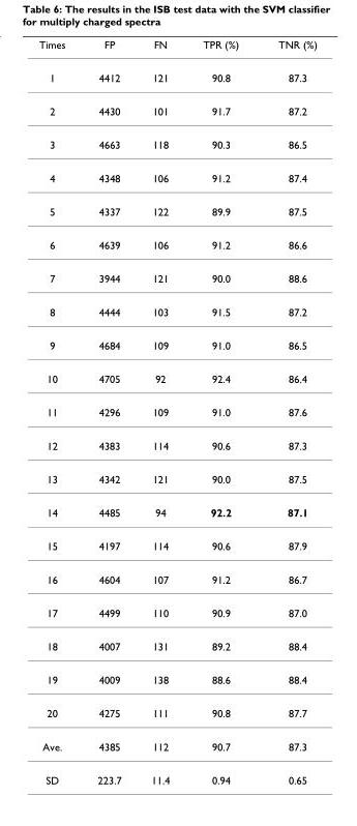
<table><thead><tr><td>Times</td><td>FP</td><td>FN</td><td>TPR (%)</td><td>TNR (%)</td></tr></thead><tbody><tr><td>1</td><td>4412</td><td>121</td><td>90.8</td><td>87.3</td></tr><tr><td>2</td><td>4430</td><td>101</td><td>91.7</td><td>87.2</td></tr><tr><td>3</td><td>4663</td><td>118</td><td>90.3</td><td>86.5</td></tr><tr><td>4</td><td>4348</td><td>106</td><td>91.2</td><td>87.4</td></tr><tr><td>5</td><td>4337</td><td>122</td><td>89.9</td><td>87.5</td></tr><tr><td>6</td><td>4639</td><td>106</td><td>91.2</td><td>86.6</td></tr><tr><td>7</td><td>3944</td><td>121</td><td>90.0</td><td>88.6</td></tr><tr><td>8</td><td>4444</td><td>103</td><td>91.5</td><td>87.2</td></tr><tr><td>9</td><td>4684</td><td>109</td><td>91.0</td><td>86.5</td></tr><tr><td>10</td><td>4705</td><td>92</td><td>92.4</td><td>86.4</td></tr><tr><td>11</td><td>4296</td><td>109</td><td>91.0</td><td>87.6</td></tr><tr><td>12</td><td>4383</td><td>114</td><td>90.6</td><td>87.3</td></tr><tr><td>13</td><td>4342</td><td>121</td><td>90.0</td><td>87.5</td></tr><tr><td>14</td><td>4485</td><td>94</td><td>92.2</td><td>87.1</td></tr><tr><td>15</td><td>4197</td><td>114</td><td>90.6</td><td>87.9</td></tr><tr><td>16</td><td>4604</td><td>107</td><td>91.2</td><td>86.7</td></tr><tr><td>17</td><td>4499</td><td>110</td><td>90.9</td><td>87.0</td></tr><tr><td>18</td><td>4007</td><td>131</td><td>89.2</td><td>88.4</td></tr><tr><td>19</td><td>4009</td><td>138</td><td>88.6</td><td>88.4</td></tr><tr><td>20</td><td>4275</td><td>111</td><td>90.8</td><td>87.7</td></tr><tr><td>Ave.</td><td>4385</td><td>112</td><td>90.7</td><td>87.3</td></tr><tr><td>SD</td><td>223.7</td><td>11.4</td><td>0.94</td><td>0.65</td></tr></tbody></table>